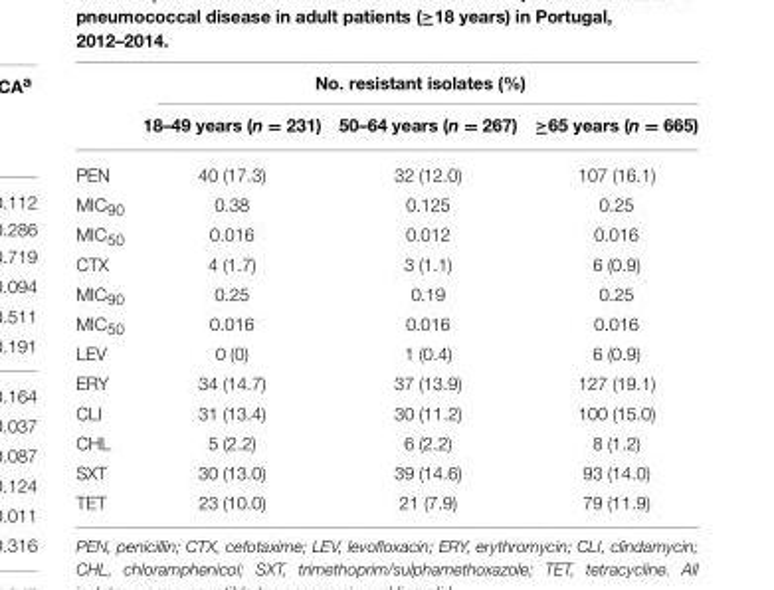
<table><thead><tr><td rowspan="2"></td><td colspan="3">No. resistant isolates (%)</td></tr><tr><td>18–49 years (n = 231)</td><td>50–64 years (n = 267)</td><td>≥65 years (n = 665)</td></tr></thead><tbody><tr><td>PEN</td><td>40 (17.3)</td><td>32 (12.0)</td><td>107 (16.1)</td></tr><tr><td>MIC<sub>90</sub></td><td>0.38</td><td>0.125</td><td>0.25</td></tr><tr><td>MIC<sub>50</sub></td><td>0.016</td><td>0.012</td><td>0.016</td></tr><tr><td>CTX</td><td>4 (1.7)</td><td>3 (1.1)</td><td>6 (0.9)</td></tr><tr><td>MIC<sub>90</sub></td><td>0.25</td><td>0.19</td><td>0.25</td></tr><tr><td>MIC<sub>50</sub></td><td>0.016</td><td>0.016</td><td>0.016</td></tr><tr><td>LEV</td><td>0 (0)</td><td>1 (0.4)</td><td>6 (0.9)</td></tr><tr><td>ERY</td><td>34 (14.7)</td><td>37 (13.9)</td><td>127 (19.1)</td></tr><tr><td>CLI</td><td>31 (13.4)</td><td>30 (11.2)</td><td>100 (15.0)</td></tr><tr><td>CHL</td><td>5 (2.2)</td><td>6 (2.2)</td><td>8 (1.2)</td></tr><tr><td>SXT</td><td>30 (13.0)</td><td>39 (14.6)</td><td>93 (14.0)</td></tr><tr><td>TET</td><td>23 (10.0)</td><td>21 (7.9)</td><td>79 (11.9)</td></tr></tbody></table>